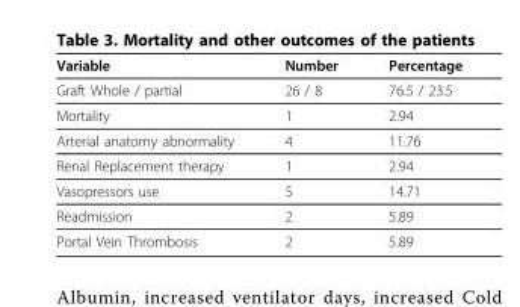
<table><thead><tr><td>Variable</td><td>Number</td><td>Percentage</td></tr></thead><tbody><tr><td>Graft Whole / partial</td><td>26 / 8</td><td>76.5 / 23.5</td></tr><tr><td>Mortality</td><td>1</td><td>2.94</td></tr><tr><td>Arterial anatomy abnormality</td><td>4</td><td>11.76</td></tr><tr><td>Renal Replacement therapy</td><td>1</td><td>2.94</td></tr><tr><td>Vasopressors use</td><td>5</td><td>14.71</td></tr><tr><td>Readmission</td><td>2</td><td>5.89</td></tr><tr><td>Portal Vein Thrombosis</td><td>2</td><td>5.89</td></tr></tbody></table>